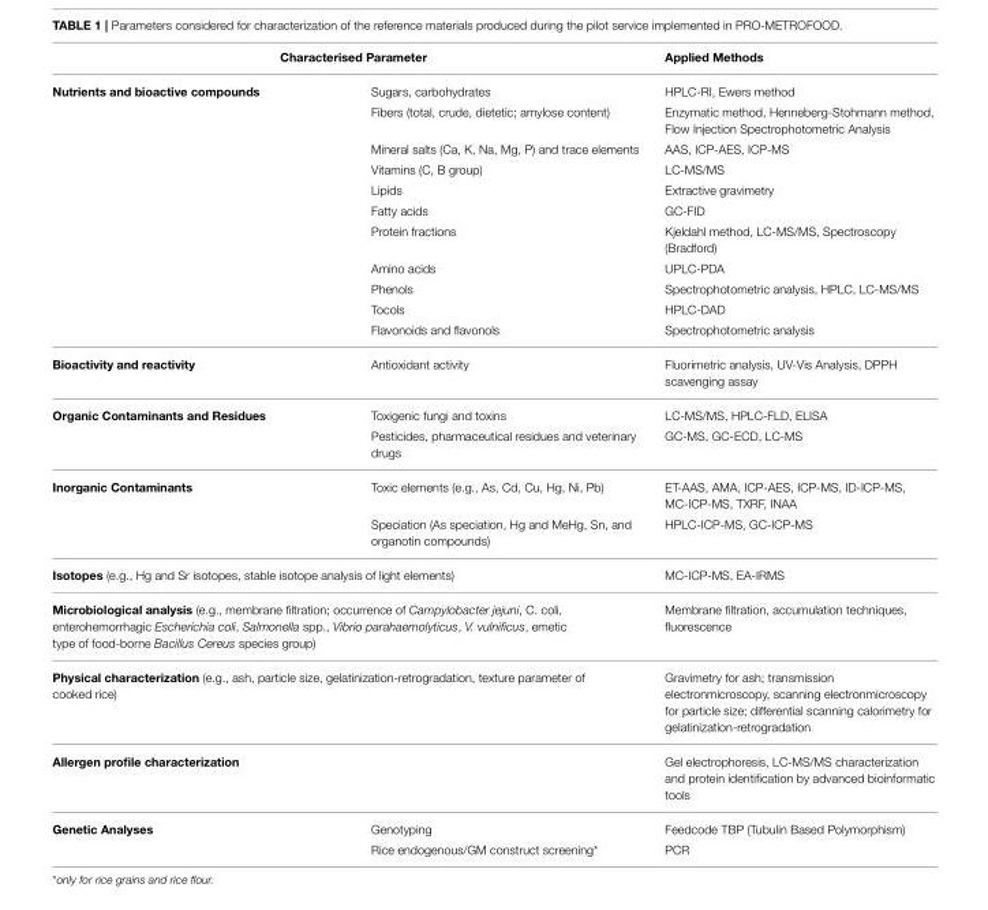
<table><thead><tr><td colspan="2">Characterised Parameter</td><td rowspan="2">Applied Methods HPLC-RI, Ewers method</td></tr><tr><td>Nutrients and bioactive compounds</td><td>Sugars, carbohydrates</td></tr></thead><tbody><tr><td></td><td>Fibers (total, crude, dietetic; amylose content)</td><td>Enzymatic method, Henneberg-Stohmann method, Flow Injection Spectrophotometric Analysis</td></tr><tr><td></td><td>Mineral salts (Ca, K, Na, Mg, P) and trace elements</td><td>AAS, ICP-AES, ICP-MS</td></tr><tr><td></td><td>Vitamins (C, B group)</td><td>LC-MS/MS</td></tr><tr><td></td><td>Lipids</td><td>Extractive gravimetry</td></tr><tr><td></td><td>Fatty acids</td><td>GC-FID</td></tr><tr><td></td><td>Protein fractions</td><td>Kjeldahl method, LC-MS/MS, Spectroscopy (Bradford)</td></tr><tr><td></td><td>Amino acids</td><td>UPLC-PDA</td></tr><tr><td></td><td>Phenols</td><td>Spectrophotometric analysis, HPLC, LC-MS/MS</td></tr><tr><td></td><td>Tocols</td><td>HPLC-DAD</td></tr><tr><td></td><td>Flavonoids and flavonols</td><td>Spectrophotometric analysis</td></tr><tr><td>Bioactivity and reactivity</td><td>Antioxidant activity</td><td>Fluorimetric analysis, UV-Vis Analysis, DPPH scavenging assay</td></tr><tr><td rowspan="2">Organic Contaminants and Residues</td><td>Toxigenic fungi and toxins</td><td>LC-MS/MS, HPLC-FLD, ELISA</td></tr><tr><td>Pesticides, pharmaceutical residues and veterinary drugs</td><td>GC-MS, GC-ECD, LC-MS</td></tr><tr><td rowspan="2">Inorganic Contaminants</td><td>Toxic elements (e.g., As, Cd, Cu, Hg, Ni, Pb)</td><td>ET-AAS, AMA, ICP-AES, ICP-MS, ID-ICP-MS, MC-ICP-MS, TXRF, INAA</td></tr><tr><td>Speciation (As speciation, Hg and MeHg, Sn, and organotin compounds)</td><td>HPLC-ICP-MS, GC-ICP-MS</td></tr><tr><td colspan="2">Isotopes (e.g., Hg and Sr isotopes, stable isotope analysis of light elements)</td><td>MC-ICP-MS, EA-IRMS</td></tr><tr><td colspan="2">Microbiological analysis (e.g., membrane filtration; occurrence of Campylobacter jejuni, C. coli, enterohemorrhagic Escherichia coli, Salmonella spp., Vibrio parahaemolyticus, V. vulnificus, emetic type of food-borne Bacillus Cereus species group)</td><td>Membrane filtration, accumulation techniques, fluorescence</td></tr><tr><td colspan="2">Physical characterization (e.g., ash, particle size, gelatinization-retrogradation, texture parameter of cooked rice)</td><td>Gravimetry for ash; transmission electronmicroscopy, scanning electronmicroscopy for particle size; differential scanning calorimetry for gelatinization-retrogradation</td></tr><tr><td colspan="2">Allergen profile characterization</td><td>Gel electrophoresis, LC-MS/MS characterization and protein identification by advanced bioinformatic tools</td></tr><tr><td rowspan="2">Genetic Analyses</td><td>Genotyping</td><td>Feedcode TBP (Tubulin Based Polymorphism)</td></tr><tr><td>Rice endogenous/GM construct screening*</td><td>PCR</td></tr></tbody></table>